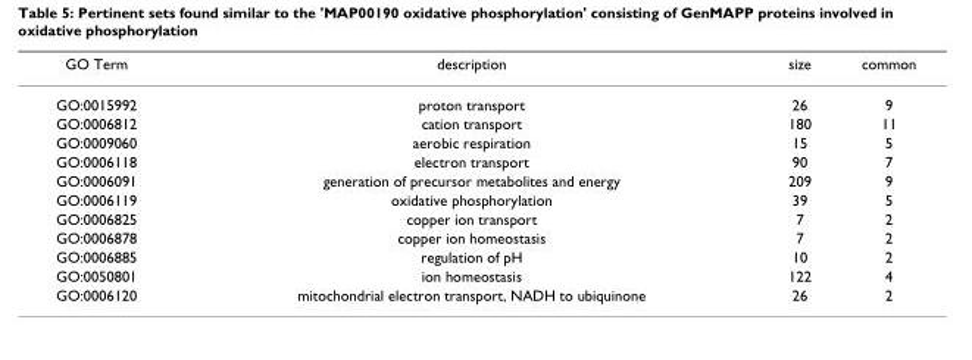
<table><thead><tr><td>GO Term</td><td>description</td><td>size</td><td>common</td></tr></thead><tbody><tr><td>GO:0015992</td><td>proton transport</td><td>26</td><td>9</td></tr><tr><td>GO:0006812</td><td>cation transport</td><td>180</td><td>11</td></tr><tr><td>GO:0009060</td><td>aerobic respiration</td><td>15</td><td>5</td></tr><tr><td>GO:0006118</td><td>electron transport</td><td>90</td><td>7</td></tr><tr><td>GO:0006091</td><td>generation of precursor metabolites and energy</td><td>209</td><td>9</td></tr><tr><td>GO:0006119</td><td>oxidative phosphorylation</td><td>39</td><td>5</td></tr><tr><td>GO:0006825</td><td>copper ion transport</td><td>7</td><td>2</td></tr><tr><td>GO:0006878</td><td>copper ion homeostasis</td><td>7</td><td>2</td></tr><tr><td>GO:0006885</td><td>regulation of pH</td><td>10</td><td>2</td></tr><tr><td>GO:0050801</td><td>ion homeostasis</td><td>122</td><td>4</td></tr><tr><td>GO:0006120</td><td>mitochondrial electron transport, NADH to ubiquinone</td><td>26</td><td>2</td></tr></tbody></table>